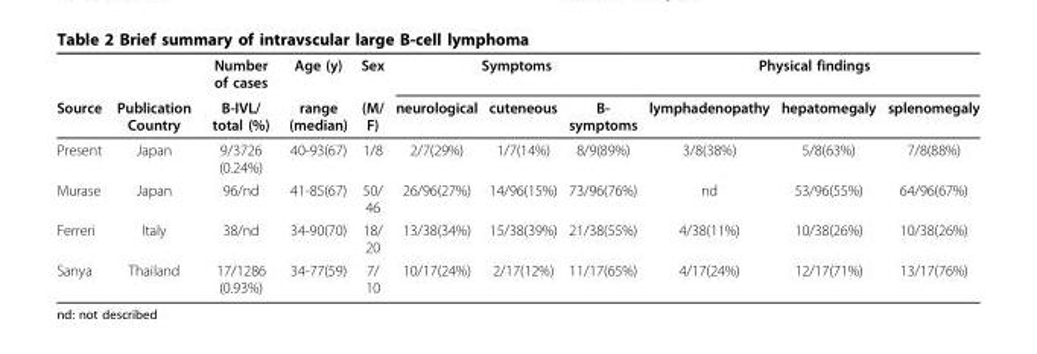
<table><thead><tr><td rowspan="2">Source</td><td rowspan="2">Publication Country</td><td rowspan="2">Number of cases B-IVL/ total (%)</td><td rowspan="2">Age (y) range (median)</td><td rowspan="2">Sex (M/ F)</td><td colspan="3">Symptoms</td><td colspan="3">Physical findings</td></tr><tr><td>neurological</td><td>cuteneous</td><td>B- symptoms</td><td>lymphadenopathy</td><td>hepatomegaly</td><td>splenomegaly</td></tr></thead><tbody><tr><td>Present</td><td>Japan</td><td>9/3726 (0.24%)</td><td>40-93(67)</td><td>1/8</td><td>2/7(29%)</td><td>1/7(14%)</td><td>8/9(89%)</td><td>3/8(38%)</td><td>5/8(63%)</td><td>7/8(88%)</td></tr><tr><td>Murase</td><td>Japan</td><td>96/nd</td><td>41-85(67)</td><td>50/ 46</td><td>26/96(27%)</td><td>14/96(15%)</td><td>73/96(76%)</td><td>nd</td><td>53/96(55%)</td><td>64/96(67%)</td></tr><tr><td>Ferreri</td><td>Italy</td><td>38/nd</td><td>34-90(70)</td><td>18/ 20</td><td>13/38(34%)</td><td>15/38(39%)</td><td>21/38(55%)</td><td>4/38(11%)</td><td>10/38(26%)</td><td>10/38(26%)</td></tr><tr><td>Sanya</td><td>Thailand</td><td>17/1286 (0.93%)</td><td>34-77(59)</td><td>7/ 10</td><td>10/17(24%)</td><td>2/17(12%)</td><td>11/17(65%)</td><td>4/17(24%)</td><td>12/17(71%)</td><td>13/17(76%)</td></tr></tbody></table>